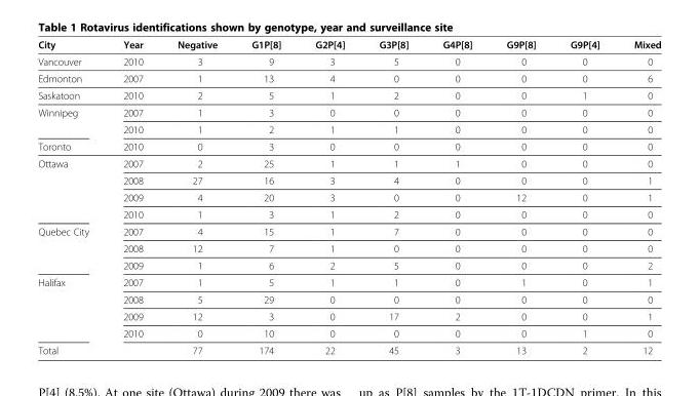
<table><thead><tr><td>City</td><td>Year</td><td>Negative</td><td>G1P[8]</td><td>G2P[4]</td><td>G3P[8]</td><td>G4P[8]</td><td>G9P[8]</td><td>G9P[4]</td><td>Mixed</td></tr></thead><tbody><tr><td>Vancouver</td><td>2010</td><td>3</td><td>9</td><td>3</td><td>5</td><td>0</td><td>0</td><td>0</td><td>0</td></tr><tr><td>Edmonton</td><td>2007</td><td>1</td><td>13</td><td>4</td><td>0</td><td>0</td><td>0</td><td>0</td><td>6</td></tr><tr><td>Saskatoon</td><td>2010</td><td>2</td><td>5</td><td>1</td><td>2</td><td>0</td><td>0</td><td>1</td><td>0</td></tr><tr><td rowspan="2">Winnipeg</td><td>2007</td><td>1</td><td>3</td><td>0</td><td>0</td><td>0</td><td>0</td><td>0</td><td>0</td></tr><tr><td>2010</td><td>1</td><td>2</td><td>1</td><td>1</td><td>0</td><td>0</td><td>0</td><td>0</td></tr><tr><td>Toronto</td><td>2010</td><td>0</td><td>3</td><td>0</td><td>0</td><td>0</td><td>0</td><td>0</td><td>0</td></tr><tr><td rowspan="4">Ottawa</td><td>2007</td><td>2</td><td>25</td><td>1</td><td>1</td><td>1</td><td>0</td><td>0</td><td>0</td></tr><tr><td>2008</td><td>27</td><td>16</td><td>3</td><td>4</td><td>0</td><td>0</td><td>0</td><td>1</td></tr><tr><td>2009</td><td>4</td><td>20</td><td>3</td><td>0</td><td>0</td><td>12</td><td>0</td><td>1</td></tr><tr><td>2010</td><td>1</td><td>3</td><td>1</td><td>2</td><td>0</td><td>0</td><td>0</td><td>0</td></tr><tr><td rowspan="3">Quebec City</td><td>2007</td><td>4</td><td>15</td><td>1</td><td>7</td><td>0</td><td>0</td><td>0</td><td>0</td></tr><tr><td>2008</td><td>12</td><td>7</td><td>1</td><td>0</td><td>0</td><td>0</td><td>0</td><td>0</td></tr><tr><td>2009</td><td>1</td><td>6</td><td>2</td><td>5</td><td>0</td><td>0</td><td>0</td><td>2</td></tr><tr><td rowspan="4">Halifax</td><td>2007</td><td>1</td><td>5</td><td>1</td><td>1</td><td>0</td><td>1</td><td>0</td><td>1</td></tr><tr><td>2008</td><td>5</td><td>29</td><td>0</td><td>0</td><td>0</td><td>0</td><td>0</td><td>0</td></tr><tr><td>2009</td><td>12</td><td>3</td><td>0</td><td>17</td><td>2</td><td>0</td><td>0</td><td>1</td></tr><tr><td>2010</td><td>0</td><td>10</td><td>0</td><td>0</td><td>0</td><td>0</td><td>1</td><td>0</td></tr><tr><td>Total</td><td></td><td>77</td><td>174</td><td>22</td><td>45</td><td>3</td><td>13</td><td>2</td><td>12</td></tr></tbody></table>